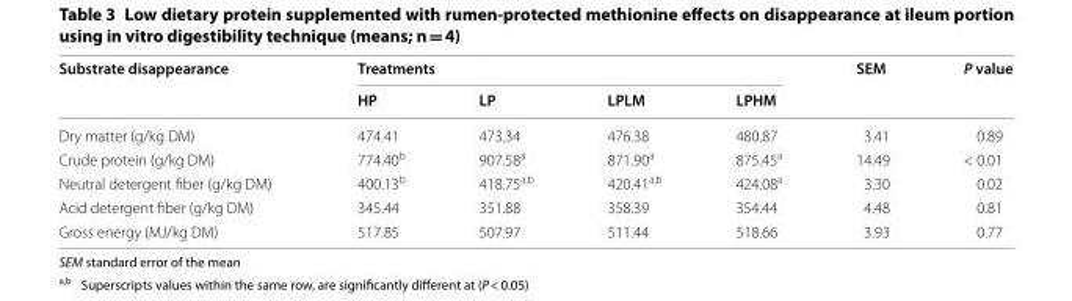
<table><thead><tr><td rowspan="2">Substrate disappearance</td><td colspan="4">Treatments</td><td rowspan="2">SEM</td><td rowspan="2">P value</td></tr><tr><td>HP</td><td>LP</td><td>LPLM</td><td>LPHM</td></tr></thead><tbody><tr><td>Dry matter (g/kg DM)</td><td>474.41</td><td>473.34</td><td>476.38</td><td>480.87</td><td>3.41</td><td>0.89</td></tr><tr><td>Crude protein (g/kg DM)</td><td>774.40<sup>b</sup></td><td>907.58<sup>a</sup></td><td>871.90<sup>a</sup></td><td>875.45<sup>a</sup></td><td>14.49</td><td>&lt; 0.01</td></tr><tr><td>Neutral detergent fiber (g/kg DM)</td><td>400.13<sup>b</sup></td><td>418.75<sup>a,b</sup></td><td>420.41<sup>a,b</sup></td><td>424.08<sup>a</sup></td><td>3.30</td><td>0.02</td></tr><tr><td>Acid detergent fiber (g/kg DM)</td><td>345.44</td><td>351.88</td><td>358.39</td><td>354.44</td><td>4.48</td><td>0.81</td></tr><tr><td>Gross energy (MJ/kg DM)</td><td>517.85</td><td>507.97</td><td>511.44</td><td>518.66</td><td>3.93</td><td>0.77</td></tr></tbody></table>